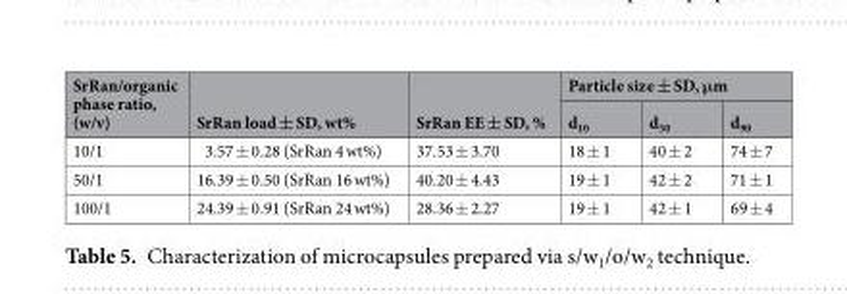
<table><thead><tr><td rowspan="2">SrRan/organic phase ratio, (w/v)</td><td rowspan="2">SrRan load ± SD, wt%</td><td rowspan="2">SrRan EE ± SD, %</td><td colspan="3">Particle size ± SD, μm</td></tr><tr><td>d<sub>10</sub></td><td>d<sub>50</sub></td><td>d<sub>90</sub></td></tr></thead><tbody><tr><td>10/1</td><td>3.57 ± 0.28 (SrRan 4 wt%)</td><td>37.53 ± 3.70</td><td>18 ± 1</td><td>40 ± 2</td><td>74 ± 7</td></tr><tr><td>50/1</td><td>16.39 ± 0.50 (SrRan 16 wt%)</td><td>40.20 ± 4.43</td><td>19 ± 1</td><td>42 ± 2</td><td>71 ± 1</td></tr><tr><td>100/1</td><td>24.39 ± 0.91 (SrRan 24 wt%)</td><td>28.36 ± 2.27</td><td>19 ± 1</td><td>42 ± 1</td><td>69 ± 4</td></tr></tbody></table>